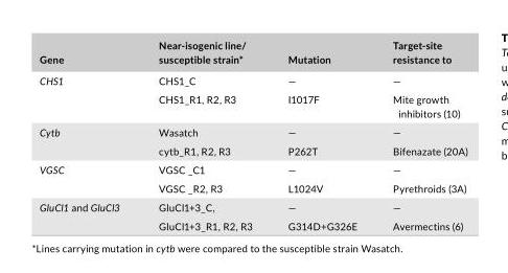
<table><thead><tr><td>Gene</td><td>Near- isogenic line/ susceptible strain*</td><td>Mutation</td><td>Target- site resistance to</td></tr></thead><tbody><tr><td rowspan="2">CHS1</td><td>CHS1_C</td><td>—</td><td>—</td></tr><tr><td>CHS1_R1, R2, R3</td><td>I1017F</td><td>Mite growth inhibitors (10)</td></tr><tr><td rowspan="2">Cytb</td><td>Wasatch</td><td>—</td><td>—</td></tr><tr><td>cytb_R1, R2, R3</td><td>P262T</td><td>Bifenazate (20A)</td></tr><tr><td rowspan="2">VGSC</td><td>VGSC _C1</td><td>—</td><td>—</td></tr><tr><td>VGSC _R2, R3</td><td>L1024V</td><td>Pyrethroids (3A)</td></tr><tr><td rowspan="2">GluCl1 and GluCl3</td><td>GluCl1+3_C,</td><td>—</td><td>—</td></tr><tr><td>GluCl1+3_R1, R2, R3</td><td>G314D+G326E</td><td>Avermectins (6)</td></tr></tbody></table>